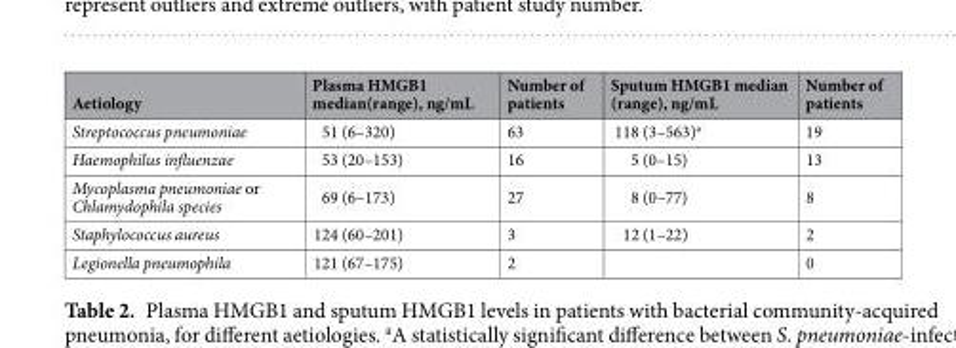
<table><thead><tr><td>Aetiology</td><td>Plasma HMGB1 median(range), ng/mL</td><td>Number of patients</td><td>Sputum HMGB1 median (range), ng/mL</td><td>Number of patients</td></tr></thead><tbody><tr><td>Streptococcus pneumoniae</td><td>51 (6–320)</td><td>63</td><td>118 (3–563)<sup>a</sup></td><td>19</td></tr><tr><td>Haemophilus influenzae</td><td>53 (20–153)</td><td>16</td><td>5 (0–15)</td><td>13</td></tr><tr><td>Mycoplasma pneumoniae or Chlamydophila species</td><td>69 (6–173)</td><td>27</td><td>8 (0–77)</td><td>8</td></tr><tr><td>Staphylococcus aureus</td><td>124 (60–201)</td><td>3</td><td>12 (1–22)</td><td>2</td></tr><tr><td>Legionella pneumophila</td><td>121 (67–175)</td><td>2</td><td></td><td>0</td></tr></tbody></table>